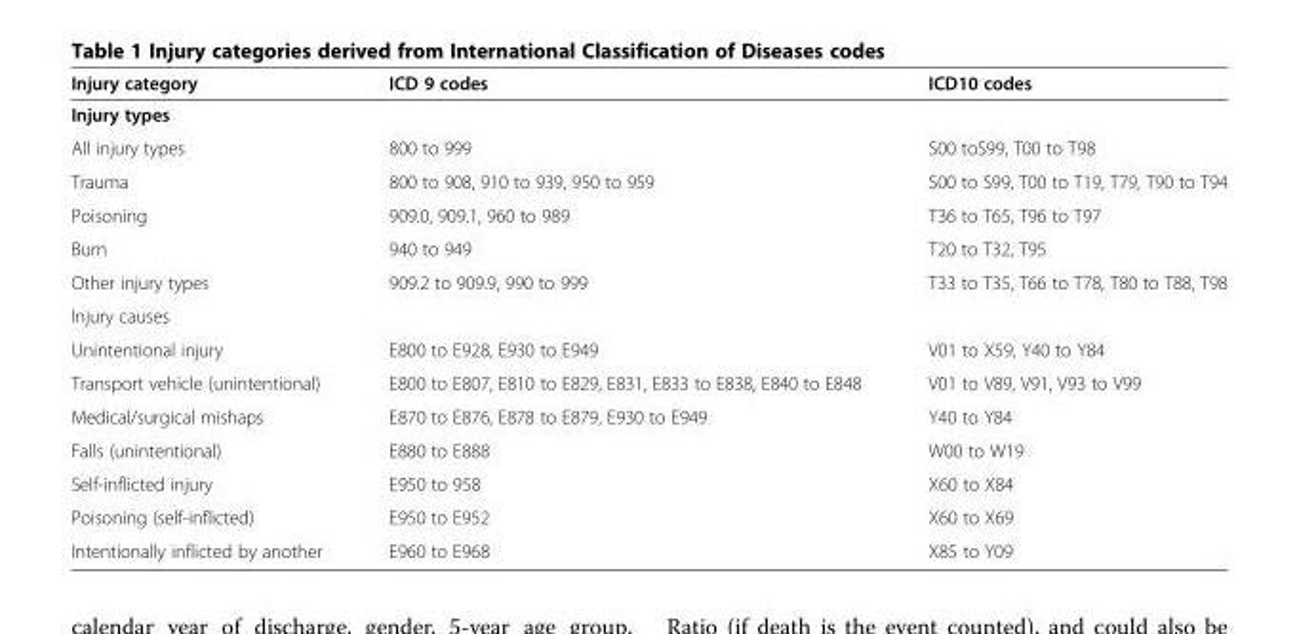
<table><thead><tr><td>Injury category</td><td>ICD 9 codes</td><td>ICD10 codes</td></tr></thead><tbody><tr><td colspan="3">Injury types</td></tr><tr><td>All injury types</td><td>800 to 999</td><td>S00 toS99, T00 to T98</td></tr><tr><td>Trauma</td><td>800 to 908, 910 to 939, 950 to 959</td><td>S00 to S99, T00 to T19, T79, T90 to T94</td></tr><tr><td>Poisoning</td><td>909.0, 909.1, 960 to 989</td><td>T36 to T65, T96 to T97</td></tr><tr><td>Burn</td><td>940 to 949</td><td>T20 to T32, T95</td></tr><tr><td>Other injury types</td><td>909.2 to 909.9, 990 to 999</td><td>T33 to T35, T66 to T78, T80 to T88, T98</td></tr><tr><td colspan="3">Injury causes</td></tr><tr><td>Unintentional injury</td><td>E800 to E928, E930 to E949</td><td>V01 to X59, Y40 to Y84</td></tr><tr><td>Transport vehicle (unintentional)</td><td>E800 to E807, E810 to E829, E831, E833 to E838, E840 to E848</td><td>V01 to V89, V91, V93 to V99</td></tr><tr><td>Medical/surgical mishaps</td><td>E870 to E876, E878 to E879, E930 to E949</td><td>Y40 to Y84</td></tr><tr><td>Falls (unintentional)</td><td>E880 to E888</td><td>W00 to W19</td></tr><tr><td>Self-inflicted injury</td><td>E950 to 958</td><td>X60 to X84</td></tr><tr><td>Poisoning (self-inflicted)</td><td>E950 to E952</td><td>X60 to X69</td></tr><tr><td>Intentionally inflicted by another</td><td>E960 to E968</td><td>X85 to Y09</td></tr></tbody></table>